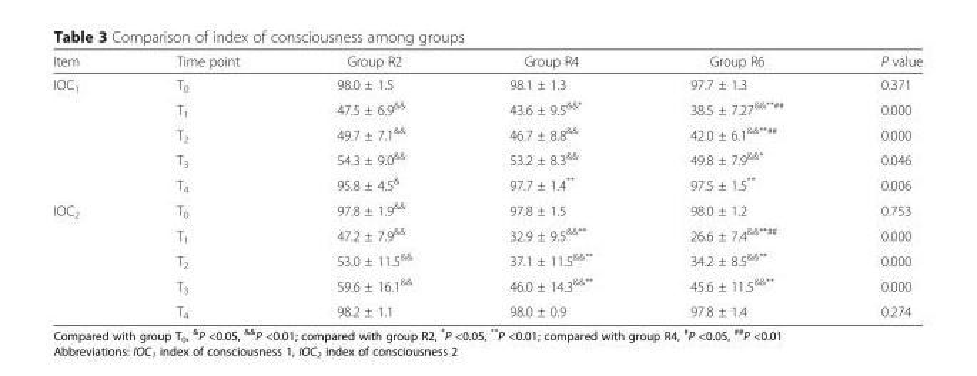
<table><thead><tr><td>Item</td><td>Time point</td><td>Group R2</td><td>Group R4</td><td>Group R6</td><td>P value</td></tr></thead><tbody><tr><td rowspan="5">IOC<sub>1</sub></td><td>T<sub>0</sub></td><td>98.0 ± 1.5</td><td>98.1 ± 1.3</td><td>97.7 ± 1.3</td><td>0.371</td></tr><tr><td>T<sub>1</sub></td><td>47.5 ± 6.9<sup>&amp;&amp;</sup></td><td>43.6 ± 9.5<sup>&amp;&amp;*</sup></td><td>38.5 ± 7.27<sup>&amp;&amp;**##</sup></td><td>0.000</td></tr><tr><td>T<sub>2</sub></td><td>49.7 ± 7.1<sup>&amp;&amp;</sup></td><td>46.7 ± 8.8<sup>&amp;&amp;</sup></td><td>42.0 ± 6.1<sup>&amp;&amp;**##</sup></td><td>0.000</td></tr><tr><td>T<sub>3</sub></td><td>54.3 ± 9.0<sup>&amp;&amp;</sup></td><td>53.2 ± 8.3<sup>&amp;&amp;</sup></td><td>49.8 ± 7.9<sup>&amp;&amp;*</sup></td><td>0.046</td></tr><tr><td>T<sub>4</sub></td><td>95.8 ± 4.5<sup>&amp;</sup></td><td>97.7 ± 1.4**</td><td>97.5 ± 1.5**</td><td>0.006</td></tr><tr><td rowspan="5">IOC<sub>2</sub></td><td>T<sub>0</sub></td><td>97.8 ± 1.9<sup>&amp;&amp;</sup></td><td>97.8 ± 1.5</td><td>98.0 ± 1.2</td><td>0.753</td></tr><tr><td>T<sub>1</sub></td><td>47.2 ± 7.9<sup>&amp;&amp;</sup></td><td>32.9 ± 9.5<sup>&amp;&amp;**</sup></td><td>26.6 ± 7.4<sup>&amp;&amp;**##</sup></td><td>0.000</td></tr><tr><td>T<sub>2</sub></td><td>53.0 ± 11.5<sup>&amp;&amp;</sup></td><td>37.1 ± 11.5<sup>&amp;&amp;**</sup></td><td>34.2 ± 8.5<sup>&amp;&amp;**</sup></td><td>0.000</td></tr><tr><td>T<sub>3</sub></td><td>59.6 ± 16.1<sup>&amp;&amp;</sup></td><td>46.0 ± 14.3<sup>&amp;&amp;**</sup></td><td>45.6 ± 11.5<sup>&amp;&amp;**</sup></td><td>0.000</td></tr><tr><td>T<sub>4</sub></td><td>98.2 ± 1.1</td><td>98.0 ± 0.9</td><td>97.8 ± 1.4</td><td>0.274</td></tr></tbody></table>